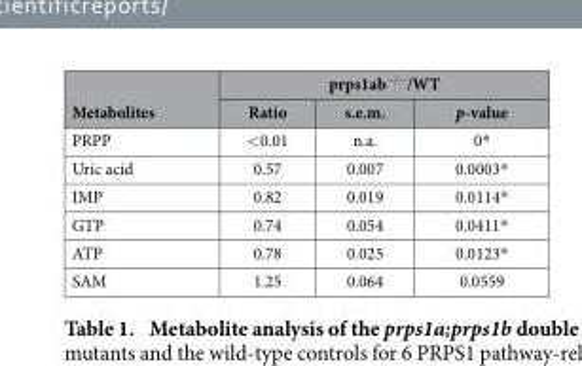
<table><thead><tr><td rowspan="2">Metabolites</td><td colspan="3">prps1ab<sup>−/−</sup>/WT</td></tr><tr><td>Ratio</td><td>s.e.m.</td><td>p-value</td></tr></thead><tbody><tr><td>PRPP</td><td>&lt; 0.01</td><td>n.a.</td><td>0*</td></tr><tr><td>Uric acid</td><td>0.57</td><td>0.007</td><td>0.0003*</td></tr><tr><td>IMP</td><td>0.82</td><td>0.019</td><td>0.0114*</td></tr><tr><td>GTP</td><td>0.74</td><td>0.054</td><td>0.0411*</td></tr><tr><td>ATP</td><td>0.78</td><td>0.025</td><td>0.0123*</td></tr><tr><td>SAM</td><td>1.25</td><td>0.064</td><td>0.0559</td></tr></tbody></table>